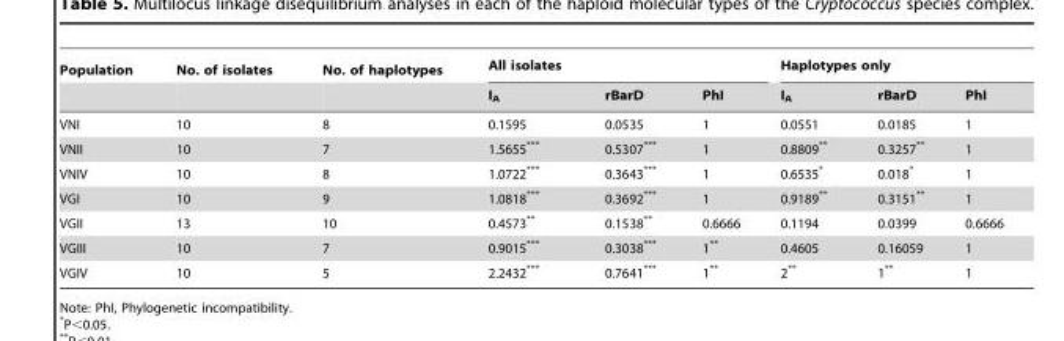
<table><thead><tr><td rowspan="2">Population</td><td rowspan="2">No. of isolates</td><td rowspan="2">No. of haplotypes</td><td colspan="3">All isolates</td><td colspan="3">Haplotypes only</td></tr><tr><td>I<sub>A</sub></td><td>rBarD</td><td>PhI</td><td>I<sub>A</sub></td><td>rBarD</td><td>PhI</td></tr></thead><tbody><tr><td>VNI</td><td>10</td><td>8</td><td>0.1595</td><td>0.0535</td><td>1</td><td>0.0551</td><td>0.0185</td><td>1</td></tr><tr><td>VNII</td><td>10</td><td>7</td><td>1.5655***</td><td>0.5307***</td><td>1</td><td>0.8809**</td><td>0.3257**</td><td>1</td></tr><tr><td>VNIV</td><td>10</td><td>8</td><td>1.0722***</td><td>0.3643***</td><td>1</td><td>0.6535*</td><td>0.018*</td><td>1</td></tr><tr><td>VGI</td><td>10</td><td>9</td><td>1.0818***</td><td>0.3692***</td><td>1</td><td>0.9189**</td><td>0.3151**</td><td>1</td></tr><tr><td>VGII</td><td>13</td><td>10</td><td>0.4573**</td><td>0.1538**</td><td>0.6666</td><td>0.1194</td><td>0.0399</td><td>0.6666</td></tr><tr><td>VGIII</td><td>10</td><td>7</td><td>0.9015***</td><td>0.3038***</td><td>1**</td><td>0.4605</td><td>0.16059</td><td>1</td></tr><tr><td>VGIV</td><td>10</td><td>5</td><td>2.2432***</td><td>0.7641***</td><td>1**</td><td>2**</td><td>1**</td><td>1</td></tr></tbody></table>